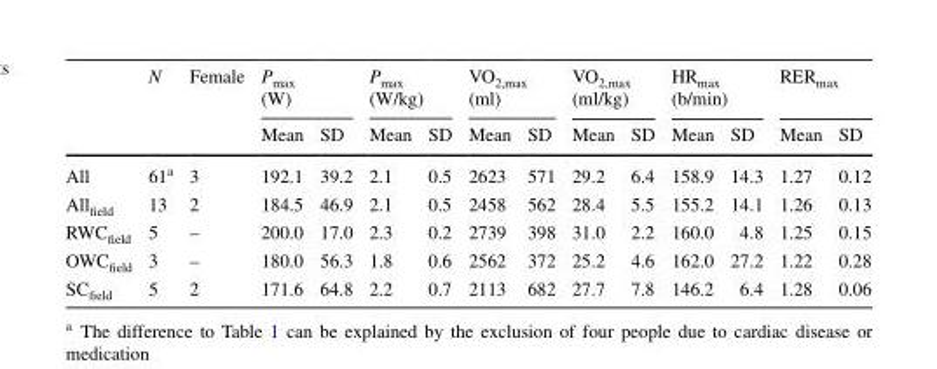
<table><thead><tr><td rowspan="2"></td><td rowspan="2">N</td><td rowspan="2">Female</td><td colspan="2">P<sub>max</sub> (W)</td><td colspan="2">P<sub>max</sub> (W/kg)</td><td colspan="2">VO<sub>2,max</sub> (ml)</td><td colspan="2">VO<sub>2,max</sub> (ml/kg)</td><td colspan="2">HR<sub>max</sub> (b/min)</td><td colspan="2">RER<sub>max</sub></td></tr><tr><td>Mean</td><td>SD</td><td>Mean</td><td>SD</td><td>Mean</td><td>SD</td><td>Mean</td><td>SD</td><td>Mean</td><td>SD</td><td>Mean</td><td>SD</td></tr></thead><tbody><tr><td>All</td><td>61<sup>a</sup></td><td>3</td><td>192.1</td><td>39.2</td><td>2.1</td><td>0.5</td><td>2623</td><td>571</td><td>29.2</td><td>6.4</td><td>158.9</td><td>14.3</td><td>1.27</td><td>0.12</td></tr><tr><td>All<sub>field</sub></td><td>13</td><td>2</td><td>184.5</td><td>46.9</td><td>2.1</td><td>0.5</td><td>2458</td><td>562</td><td>28.4</td><td>5.5</td><td>155.2</td><td>14.1</td><td>1.26</td><td>0.13</td></tr><tr><td>RWC<sub>field</sub></td><td>5</td><td>–</td><td>200.0</td><td>17.0</td><td>2.3</td><td>0.2</td><td>2739</td><td>398</td><td>31.0</td><td>2.2</td><td>160.0</td><td>4.8</td><td>1.25</td><td>0.15</td></tr><tr><td>OWC<sub>field</sub></td><td>3</td><td>–</td><td>180.0</td><td>56.3</td><td>1.8</td><td>0.6</td><td>2562</td><td>372</td><td>25.2</td><td>4.6</td><td>162.0</td><td>27.2</td><td>1.22</td><td>0.28</td></tr><tr><td>SC<sub>field</sub></td><td>5</td><td>2</td><td>171.6</td><td>64.8</td><td>2.2</td><td>0.7</td><td>2113</td><td>682</td><td>27.7</td><td>7.8</td><td>146.2</td><td>6.4</td><td>1.28</td><td>0.06</td></tr></tbody></table>